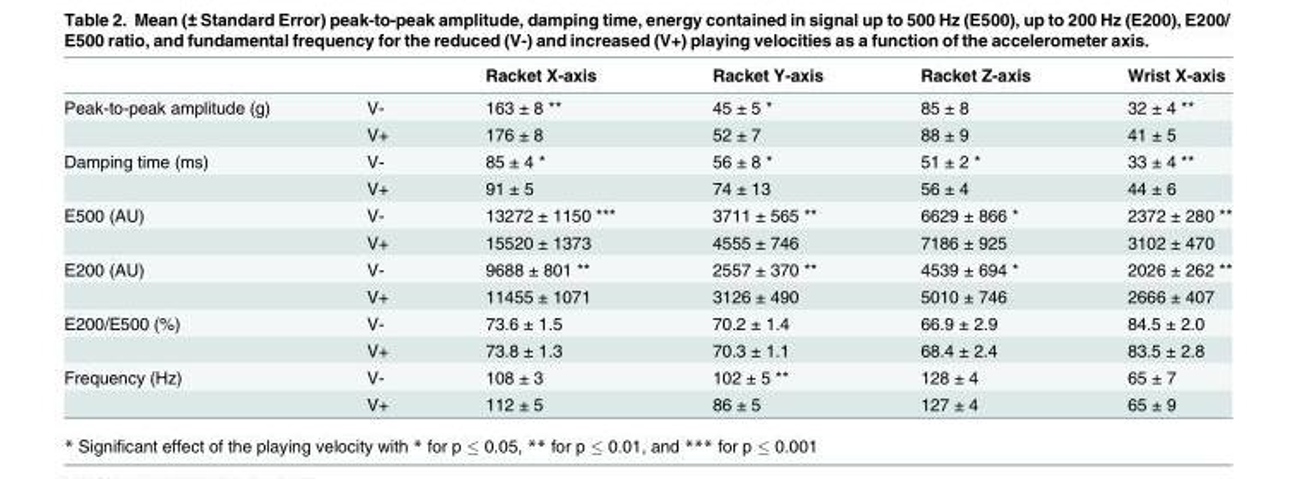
<table><thead><tr><td></td><td></td><td>Racket X-axis</td><td>Racket Y-axis</td><td>Racket Z-axis</td><td>Wrist X-axis</td></tr></thead><tbody><tr><td rowspan="2">Peak-to-peak amplitude (g)</td><td>V-</td><td>163 ± 8 **</td><td>45 ± 5 *</td><td>85 ± 8</td><td>32 ± 4 **</td></tr><tr><td>V+</td><td>176 ± 8</td><td>52 ± 7</td><td>88 ± 9</td><td>41 ± 5</td></tr><tr><td rowspan="2">Damping time (ms)</td><td>V-</td><td>85 ± 4 *</td><td>56 ± 8 *</td><td>51 ± 2 *</td><td>33 ± 4 **</td></tr><tr><td>V+</td><td>91 ± 5</td><td>74 ± 13</td><td>56 ± 4</td><td>44 ± 6</td></tr><tr><td rowspan="2">E500 (AU)</td><td>V-</td><td>13272 ± 1150 ***</td><td>3711 ± 565 **</td><td>6629 ± 866 *</td><td>2372 ± 280 **</td></tr><tr><td>V+</td><td>15520 ± 1373</td><td>4555 ± 746</td><td>7186 ± 925</td><td>3102 ± 470</td></tr><tr><td rowspan="2">E200 (AU)</td><td>V-</td><td>9688 ± 801 **</td><td>2557 ± 370 **</td><td>4539 ± 694 *</td><td>2026 ± 262 **</td></tr><tr><td>V+</td><td>11455 ± 1071</td><td>3126 ± 490</td><td>5010 ± 746</td><td>2666 ± 407</td></tr><tr><td rowspan="2">E200/E500 (%)</td><td>V-</td><td>73.6 ± 1.5</td><td>70.2 ± 1.4</td><td>66.9 ± 2.9</td><td>84.5 ± 2.0</td></tr><tr><td>V+</td><td>73.8 ± 1.3</td><td>70.3 ± 1.1</td><td>68.4 ± 2.4</td><td>83.5 ± 2.8</td></tr><tr><td rowspan="2">Frequency (Hz)</td><td>V-</td><td>108 ± 3</td><td>102 ± 5 **</td><td>128 ± 4</td><td>65 ± 7</td></tr><tr><td>V+</td><td>112 ± 5</td><td>86 ± 5</td><td>127 ± 4</td><td>65 ± 9</td></tr></tbody></table>